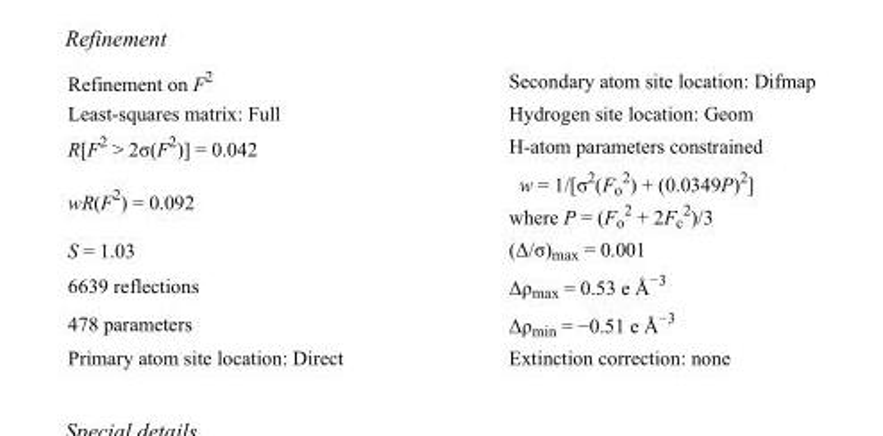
<table><tbody><tr><td>Refinement on F<sup>2</sup></td><td>Secondary atom site location: Difmap</td></tr><tr><td>Least-squares matrix: Full</td><td>Hydrogen site location: Geom</td></tr><tr><td>R[F<sup>2</sup> &gt; 2σ(F<sup>2</sup>)] = 0.042</td><td>H-atom parameters constrained</td></tr><tr><td>wR(F<sup>2</sup>) = 0.092</td><td>w = 1/[σ<sup>2</sup>(F<sub>o</sub> <sup>2</sup>) + (0.0349P)<sup>2</sup>] where P = (F<sub>o</sub> <sup>2</sup> + 2F<sub>c</sub> <sup>2</sup>)/3</td></tr><tr><td>S = 1.03</td><td>(Δ/σ)<sub>max</sub> = 0.001</td></tr><tr><td>6639 reflections</td><td>Δρ<sub>max</sub> = 0.53 e Å<sup>−3</sup></td></tr><tr><td>478 parameters</td><td>Δρ<sub>min</sub> = −0.51 e Å<sup>−3</sup></td></tr><tr><td>Primary atom site location: Direct</td><td>Extinction correction: none</td></tr></tbody></table>